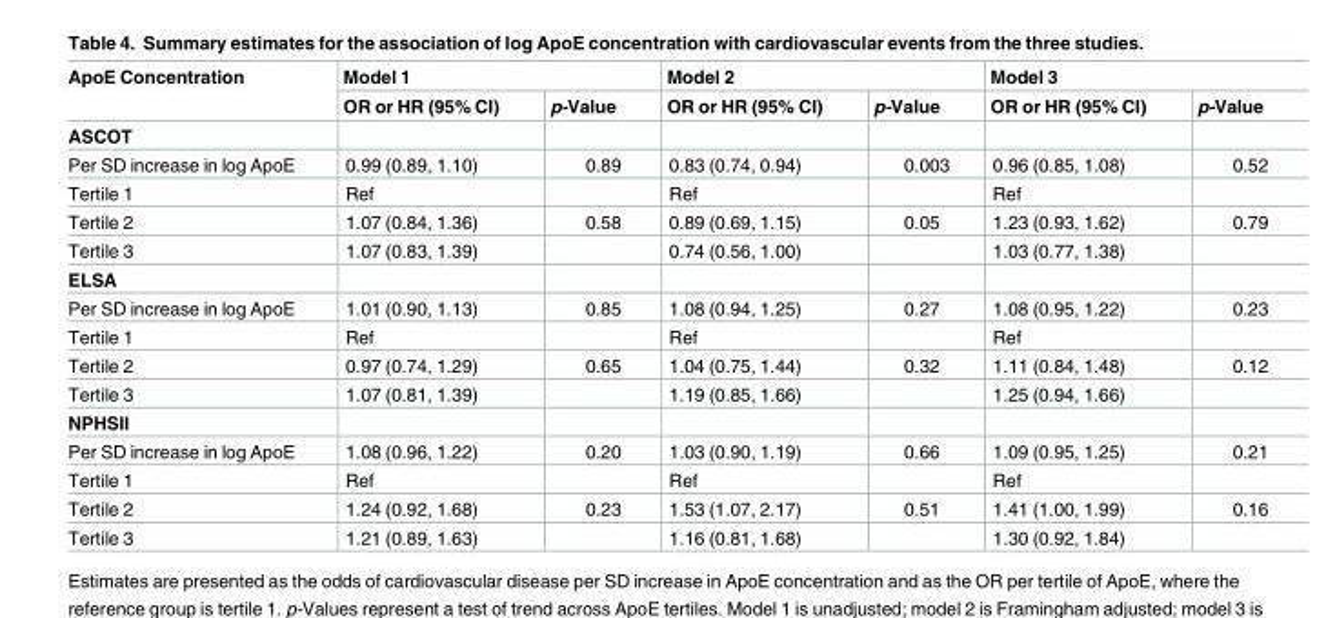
<table><thead><tr><td rowspan="2">ApoE Concentration</td><td colspan="2">Model 1</td><td colspan="2">Model 2</td><td colspan="2">Model 3</td></tr><tr><td>OR or HR (95% CI)</td><td>p-Value</td><td>OR or HR (95% CI)</td><td>p-Value</td><td>OR or HR (95% CI)</td><td>p-Value</td></tr></thead><tbody><tr><td colspan="7">ASCOT</td></tr><tr><td>Per SD increase in log ApoE</td><td>0.99 (0.89, 1.10)</td><td>0.89</td><td>0.83 (0.74, 0.94)</td><td>0.003</td><td>0.96 (0.85, 1.08)</td><td>0.52</td></tr><tr><td>Tertile 1</td><td>Ref</td><td></td><td>Ref</td><td></td><td>Ref</td><td></td></tr><tr><td>Tertile 2</td><td>1.07 (0.84, 1.36)</td><td>0.58</td><td>0.89 (0.69, 1.15)</td><td>0.05</td><td>1.23 (0.93, 1.62)</td><td>0.79</td></tr><tr><td>Tertile 3</td><td>1.07 (0.83, 1.39)</td><td></td><td>0.74 (0.56, 1.00)</td><td></td><td>1.03 (0.77, 1.38)</td><td></td></tr><tr><td colspan="7">ELSA</td></tr><tr><td>Per SD increase in log ApoE</td><td>1.01 (0.90, 1.13)</td><td>0.85</td><td>1.08 (0.94, 1.25)</td><td>0.27</td><td>1.08 (0.95, 1.22)</td><td>0.23</td></tr><tr><td>Tertile 1</td><td>Ref</td><td></td><td>Ref</td><td></td><td>Ref</td><td></td></tr><tr><td>Tertile 2</td><td>0.97 (0.74, 1.29)</td><td>0.65</td><td>1.04 (0.75, 1.44)</td><td>0.32</td><td>1.11 (0.84, 1.48)</td><td>0.12</td></tr><tr><td>Tertile 3</td><td>1.07 (0.81, 1.39)</td><td></td><td>1.19 (0.85, 1.66)</td><td></td><td>1.25 (0.94, 1.66)</td><td></td></tr><tr><td colspan="7">NPHSII</td></tr><tr><td>Per SD increase in log ApoE</td><td>1.08 (0.96, 1.22)</td><td>0.20</td><td>1.03 (0.90, 1.19)</td><td>0.66</td><td>1.09 (0.95, 1.25)</td><td>0.21</td></tr><tr><td>Tertile 1</td><td>Ref</td><td></td><td>Ref</td><td></td><td>Ref</td><td></td></tr><tr><td>Tertile 2</td><td>1.24 (0.92, 1.68)</td><td>0.23</td><td>1.53 (1.07, 2.17)</td><td>0.51</td><td>1.41 (1.00, 1.99)</td><td>0.16</td></tr><tr><td>Tertile 3</td><td>1.21 (0.89, 1.63)</td><td></td><td>1.16 (0.81, 1.68)</td><td></td><td>1.30 (0.92, 1.84)</td><td></td></tr></tbody></table>